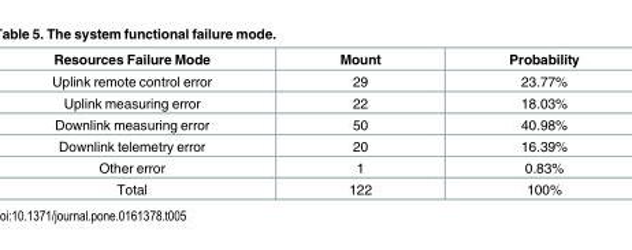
<table><thead><tr><td>Resources Failure Mode</td><td>Mount</td><td>Probability</td></tr></thead><tbody><tr><td>Uplink remote control error</td><td>29</td><td>23.77%</td></tr><tr><td>Uplink measuring error</td><td>22</td><td>18.03%</td></tr><tr><td>Downlink measuring error</td><td>50</td><td>40.98%</td></tr><tr><td>Downlink telemetry error</td><td>20</td><td>16.39%</td></tr><tr><td>Other error</td><td>1</td><td>0.83%</td></tr><tr><td>Total</td><td>122</td><td>100%</td></tr></tbody></table>